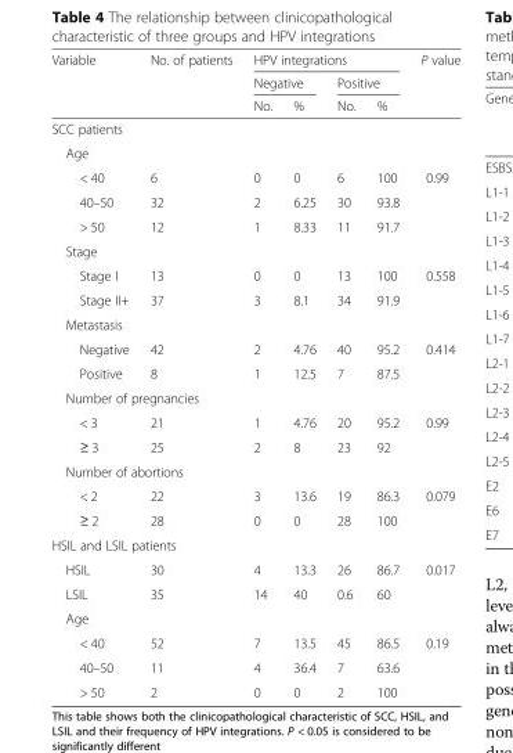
<table><thead><tr><td rowspan="3">Variable</td><td rowspan="3">No. of patients</td><td colspan="4">HPV integrations</td><td rowspan="3">P value</td></tr><tr><td colspan="2">Negative</td><td colspan="2">Positive</td></tr><tr><td>No.</td><td>%</td><td>No.</td><td>%</td></tr></thead><tbody><tr><td colspan="7">SCC patients</td></tr><tr><td colspan="7">Age</td></tr><tr><td>&lt; 40</td><td>6</td><td>0</td><td>0</td><td>6</td><td>100</td><td rowspan="3">0.99</td></tr><tr><td>40–50</td><td>32</td><td>2</td><td>6.25</td><td>30</td><td>93.8</td></tr><tr><td>&gt; 50</td><td>12</td><td>1</td><td>8.33</td><td>11</td><td>91.7</td></tr><tr><td colspan="7">Stage</td></tr><tr><td>Stage I</td><td>13</td><td>0</td><td>0</td><td>13</td><td>100</td><td rowspan="2">0.558</td></tr><tr><td>Stage II+</td><td>37</td><td>3</td><td>8.1</td><td>34</td><td>91.9</td></tr><tr><td colspan="7">Metastasis</td></tr><tr><td>Negative</td><td>42</td><td>2</td><td>4.76</td><td>40</td><td>95.2</td><td rowspan="2">0.414</td></tr><tr><td>Positive</td><td>8</td><td>1</td><td>12.5</td><td>7</td><td>87.5</td></tr><tr><td colspan="7">Number of pregnancies</td></tr><tr><td>&lt; 3</td><td>21</td><td>1</td><td>4.76</td><td>20</td><td>95.2</td><td rowspan="2">0.99</td></tr><tr><td>≥ 3</td><td>25</td><td>2</td><td>8</td><td>23</td><td>92</td></tr><tr><td colspan="7">Number of abortions</td></tr><tr><td>&lt; 2</td><td>22</td><td>3</td><td>13.6</td><td>19</td><td>86.3</td><td rowspan="2">0.079</td></tr><tr><td>≥ 2</td><td>28</td><td>0</td><td>0</td><td>28</td><td>100</td></tr><tr><td colspan="7">HSIL and LSIL patients</td></tr><tr><td>HSIL</td><td>30</td><td>4</td><td>13.3</td><td>26</td><td>86.7</td><td rowspan="2">0.017</td></tr><tr><td>LSIL</td><td>35</td><td>14</td><td>40</td><td>0.6</td><td>60</td></tr><tr><td colspan="7">Age</td></tr><tr><td>&lt; 40</td><td>52</td><td>7</td><td>13.5</td><td>45</td><td>86.5</td><td rowspan="3">0.19</td></tr><tr><td>40–50</td><td>11</td><td>4</td><td>36.4</td><td>7</td><td>63.6</td></tr><tr><td>&gt; 50</td><td>2</td><td>0</td><td>0</td><td>2</td><td>100</td></tr></tbody></table>